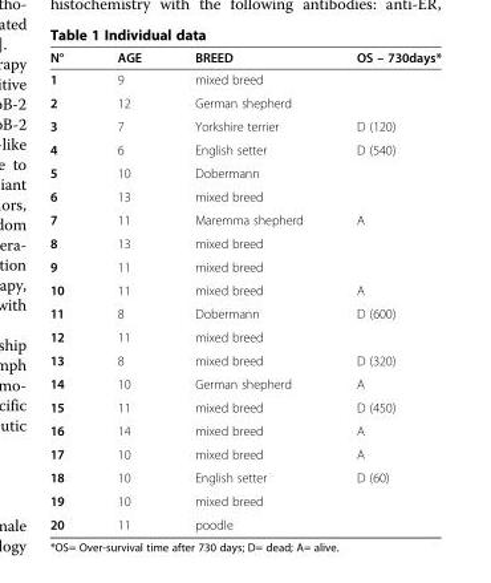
<table><thead><tr><td>N°</td><td>AGE</td><td>BREED</td><td>OS – 730days*</td></tr></thead><tbody><tr><td>1</td><td>9</td><td>mixed breed</td><td></td></tr><tr><td>2</td><td>12</td><td>German shepherd</td><td></td></tr><tr><td>3</td><td>7</td><td>Yorkshire terrier</td><td>D (120)</td></tr><tr><td>4</td><td>6</td><td>English setter</td><td>D (540)</td></tr><tr><td>5</td><td>10</td><td>Dobermann</td><td></td></tr><tr><td>6</td><td>13</td><td>mixed breed</td><td></td></tr><tr><td>7</td><td>11</td><td>Maremma shepherd</td><td>A</td></tr><tr><td>8</td><td>13</td><td>mixed breed</td><td></td></tr><tr><td>9</td><td>11</td><td>mixed breed</td><td></td></tr><tr><td>10</td><td>11</td><td>mixed breed</td><td>A</td></tr><tr><td>11</td><td>8</td><td>Dobermann</td><td>D (600)</td></tr><tr><td>12</td><td>11</td><td>mixed breed</td><td></td></tr><tr><td>13</td><td>8</td><td>mixed breed</td><td>D (320)</td></tr><tr><td>14</td><td>10</td><td>German shepherd</td><td>A</td></tr><tr><td>15</td><td>11</td><td>mixed breed</td><td>D (450)</td></tr><tr><td>16</td><td>14</td><td>mixed breed</td><td>A</td></tr><tr><td>17</td><td>10</td><td>mixed breed</td><td>A</td></tr><tr><td>18</td><td>10</td><td>English setter</td><td>D (60)</td></tr><tr><td>19</td><td>10</td><td>mixed breed</td><td></td></tr><tr><td>20</td><td>11</td><td>poodle</td><td></td></tr></tbody></table>